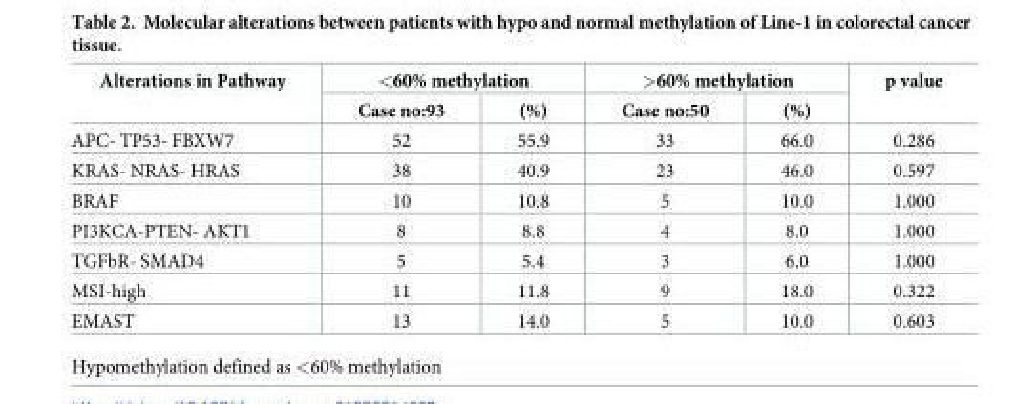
<table><thead><tr><td rowspan="2">Alterations in Pathway</td><td colspan="2">&lt;60% methylation</td><td colspan="2">&gt;60% methylation</td><td rowspan="2">p value</td></tr><tr><td>Case no:93</td><td>(%)</td><td>Case no:50</td><td>(%)</td></tr></thead><tbody><tr><td>APC- TP53- FBXW7</td><td>52</td><td>55.9</td><td>33</td><td>66.0</td><td>0.286</td></tr><tr><td>KRAS- NRAS- HRAS</td><td>38</td><td>40.9</td><td>23</td><td>46.0</td><td>0.597</td></tr><tr><td>BRAF</td><td>10</td><td>10.8</td><td>5</td><td>10.0</td><td>1.000</td></tr><tr><td>PI3KCA-PTEN- AKT1</td><td>8</td><td>8.8</td><td>4</td><td>8.0</td><td>1.000</td></tr><tr><td>TGFbR- SMAD4</td><td>5</td><td>5.4</td><td>3</td><td>6.0</td><td>1.000</td></tr><tr><td>MSI-high</td><td>11</td><td>11.8</td><td>9</td><td>18.0</td><td>0.322</td></tr><tr><td>EMAST</td><td>13</td><td>14.0</td><td>5</td><td>10.0</td><td>0.603</td></tr></tbody></table>